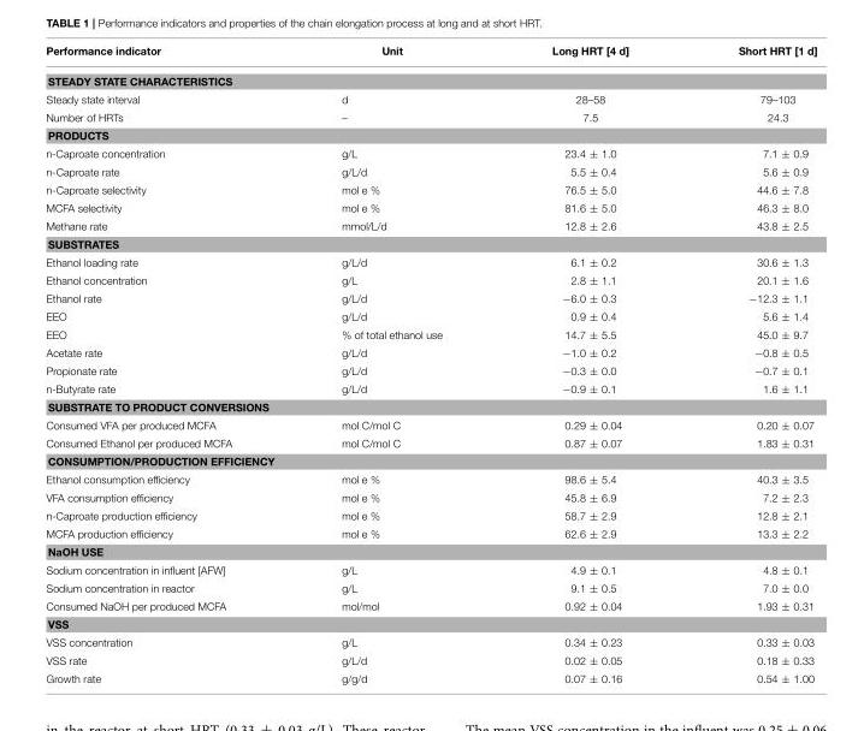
<table><thead><tr><td>Performance indicator</td><td>Unit</td><td>Long HRT [4 d]</td><td>Short HRT [1 d]</td></tr></thead><tbody><tr><td colspan="4">STEADY STATE CHARACTERISTICS</td></tr><tr><td>Steady state interval</td><td>d</td><td>28–58</td><td>79–103</td></tr><tr><td>Number of HRTs</td><td>–</td><td>7.5</td><td>24.3</td></tr><tr><td colspan="4">PRODUCTS</td></tr><tr><td>n-Caproate concentration</td><td>g/L</td><td>23.4 ± 1.0</td><td>7.1 ± 0.9</td></tr><tr><td>n-Caproate rate</td><td>g/L/d</td><td>5.5 ± 0.4</td><td>5.6 ± 0.9</td></tr><tr><td>n-Caproate selectivity</td><td>mol e %</td><td>76.5 ± 5.0</td><td>44.6 ± 7.8</td></tr><tr><td>MCFA selectivity</td><td>mol e %</td><td>81.6 ± 5.0</td><td>46.3 ± 8.0</td></tr><tr><td>Methane rate</td><td>mmol/L/d</td><td>12.8 ± 2.6</td><td>43.8 ± 2.5</td></tr><tr><td colspan="4">SUBSTRATES</td></tr><tr><td>Ethanol loading rate</td><td>g/L/d</td><td>6.1 ± 0.2</td><td>30.6 ± 1.3</td></tr><tr><td>Ethanol concentration</td><td>g/L</td><td>2.8 ± 1.1</td><td>20.1 ± 1.6</td></tr><tr><td>Ethanol rate</td><td>g/L/d</td><td>−6.0 ± 0.3</td><td>−12.3 ± 1.1</td></tr><tr><td>EEO</td><td>g/L/d</td><td>0.9 ± 0.4</td><td>5.6 ± 1.4</td></tr><tr><td>EEO</td><td>% of total ethanol use</td><td>14.7 ± 5.5</td><td>45.0 ± 9.7</td></tr><tr><td>Acetate rate</td><td>g/L/d</td><td>−1.0 ± 0.2</td><td>−0.8 ± 0.5</td></tr><tr><td>Propionate rate</td><td>g/L/d</td><td>−0.3 ± 0.0</td><td>−0.7 ± 0.1</td></tr><tr><td>n-Butyrate rate</td><td>g/L/d</td><td>−0.9 ± 0.1</td><td>1.6 ± 1.1</td></tr><tr><td colspan="4">SUBSTRATE TO PRODUCT CONVERSIONS</td></tr><tr><td>Consumed VFA per produced MCFA</td><td>mol C/mol C</td><td>0.29 ± 0.04</td><td>0.20 ± 0.07</td></tr><tr><td>Consumed Ethanol per produced MCFA</td><td>mol C/mol C</td><td>0.87 ± 0.07</td><td>1.83 ± 0.31</td></tr><tr><td colspan="4">CONSUMPTION/PRODUCTION EFFICIENCY</td></tr><tr><td>Ethanol consumption efficiency</td><td>mol e %</td><td>98.6 ± 5.4</td><td>40.3 ± 3.5</td></tr><tr><td>VFA consumption efficiency</td><td>mol e %</td><td>45.8 ± 6.9</td><td>7.2 ± 2.3</td></tr><tr><td>n-Caproate production efficiency</td><td>mol e %</td><td>58.7 ± 2.9</td><td>12.8 ± 2.1</td></tr><tr><td>MCFA production efficiency</td><td>mol e %</td><td>62.6 ± 2.9</td><td>13.3 ± 2.2</td></tr><tr><td colspan="4">NaOH USE</td></tr><tr><td>Sodium concentration in influent [AFW]</td><td>g/L</td><td>4.9 ± 0.1</td><td>4.8 ± 0.1</td></tr><tr><td>Sodium concentration in reactor</td><td>g/L</td><td>9.1 ± 0.5</td><td>7.0 ± 0.0</td></tr><tr><td>Consumed NaOH per produced MCFA</td><td>mol/mol</td><td>0.92 ± 0.04</td><td>1.93 ± 0.31</td></tr><tr><td colspan="4">VSS</td></tr><tr><td>VSS concentration</td><td>g/L</td><td>0.34 ± 0.23</td><td>0.33 ± 0.03</td></tr><tr><td>VSS rate</td><td>g/L/d</td><td>0.02 ± 0.05</td><td>0.18 ± 0.33</td></tr><tr><td>Growth rate</td><td>g/g/d</td><td>0.07 ± 0.16</td><td>0.54 ± 1.00</td></tr></tbody></table>